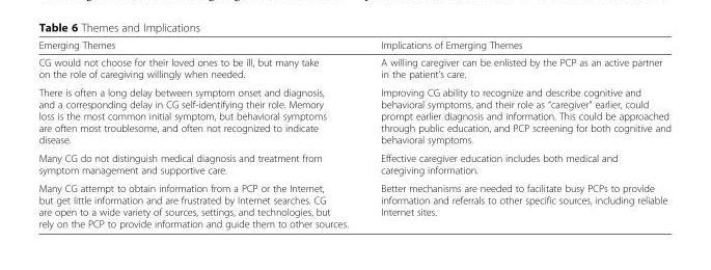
<table><thead><tr><td>Emerging Themes</td><td>Implications of Emerging Themes</td></tr></thead><tbody><tr><td>CG would not choose for their loved ones to be ill, but many take on the role of caregiving willingly when needed.</td><td>A willing caregiver can be enlisted by the PCP as an active partner in the patient’s care.</td></tr><tr><td>There is often a long delay between symptom onset and diagnosis, and a corresponding delay in CG self-identifying their role. Memory loss is the most common initial symptom, but behavioral symptoms are often most troublesome, and often not recognized to indicate disease.</td><td>Improving CG ability to recognize and describe cognitive and behavioral symptoms, and their role as “caregiver” earlier, could prompt earlier diagnosis and information. This could be approached through public education, and PCP screening for both cognitive and behavioral symptoms.</td></tr><tr><td>Many CG do not distinguish medical diagnosis and treatment from symptom management and supportive care.</td><td>Effective caregiver education includes both medical and caregiving information.</td></tr><tr><td>Many CG attempt to obtain information from a PCP or the Internet, but get little information and are frustrated by Internet searches. CG are open to a wide variety of sources, settings, and technologies, but rely on the PCP to provide information and guide them to other sources.</td><td>Better mechanisms are needed to facilitate busy PCPs to provide information and referrals to other specific sources, including reliable Internet sites.</td></tr></tbody></table>